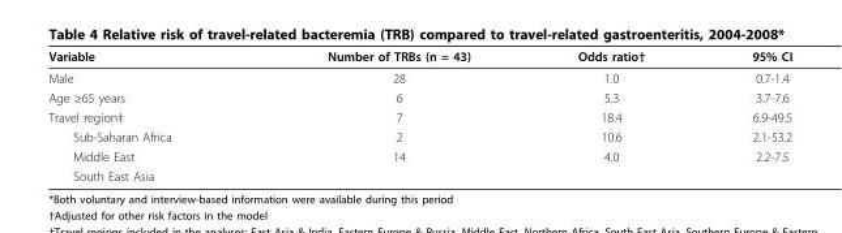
<table><thead><tr><td>Variable</td><td>Number of TRBs (n = 43)</td><td>Odds ratio†</td><td>95% CI</td></tr></thead><tbody><tr><td>Male</td><td>28</td><td>1.0</td><td>0.7-1.4</td></tr><tr><td>Age ≥65 years</td><td>6</td><td>5.3</td><td>3.7-7.6</td></tr><tr><td>Travel region‡</td><td>7</td><td>18.4</td><td>6.9-49.5</td></tr><tr><td>Sub-Saharan Africa</td><td>2</td><td>10.6</td><td>2.1-53.2</td></tr><tr><td>Middle East</td><td>14</td><td>4.0</td><td>2.2-7.5</td></tr><tr><td>South East Asia</td><td></td><td></td><td></td></tr></tbody></table>